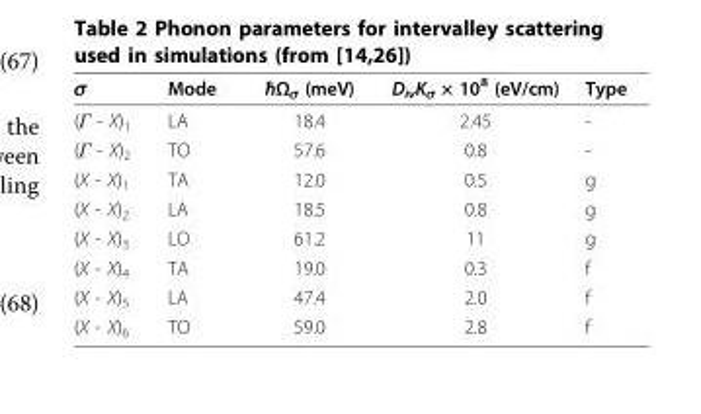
<table><thead><tr><td>σ</td><td>Mode</td><td>ħΩ<sub>σ</sub> (meV)</td><td>D<sub>iv</sub>K<sub>σ</sub> × 10<sup>8</sup> (eV/cm)</td><td>Type</td></tr></thead><tbody><tr><td>(Γ - X)<sub>1</sub></td><td>LA</td><td>18.4</td><td>2.45</td><td>-</td></tr><tr><td>(Γ - X)<sub>2</sub></td><td>TO</td><td>57.6</td><td>0.8</td><td>-</td></tr><tr><td>(X - X)<sub>1</sub></td><td>TA</td><td>12.0</td><td>0.5</td><td>g</td></tr><tr><td>(X - X)<sub>2</sub></td><td>LA</td><td>18.5</td><td>0.8</td><td>g</td></tr><tr><td>(X - X)<sub>3</sub></td><td>LO</td><td>61.2</td><td>11</td><td>g</td></tr><tr><td>(X - X)<sub>4</sub></td><td>TA</td><td>19.0</td><td>0.3</td><td>f</td></tr><tr><td>(X - X)<sub>5</sub></td><td>LA</td><td>47.4</td><td>2.0</td><td>f</td></tr><tr><td>(X - X)<sub>6</sub></td><td>TO</td><td>59.0</td><td>2.8</td><td>f</td></tr></tbody></table>